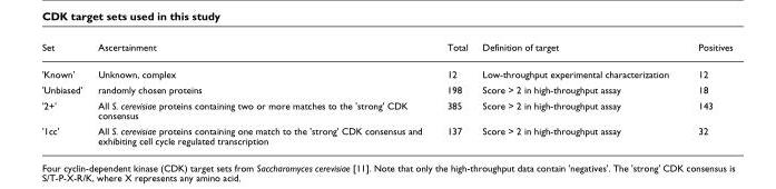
<table><thead><tr><td>Set</td><td>Ascertainment</td><td>Total</td><td>Definition of target</td><td>Positives</td></tr></thead><tbody><tr><td>&#x27;Known&#x27;</td><td>Unknown, complex</td><td>12</td><td>Low-throughput experimental characterization</td><td>12</td></tr><tr><td>&#x27;Unbiased&#x27;</td><td>randomly chosen proteins</td><td>198</td><td>Score &gt; 2 in high-throughput assay</td><td>18</td></tr><tr><td>&#x27;2+&#x27;</td><td>All S. cerevisiae proteins containing two or more matches to the &#x27;strong&#x27; CDK consensus</td><td>385</td><td>Score &gt; 2 in high-throughput assay</td><td>143</td></tr><tr><td>&#x27;1cc&#x27;</td><td>All S. cerevisiae proteins containing one match to the &#x27;strong&#x27; CDK consensus and exhibiting cell cycle regulated transcription</td><td>137</td><td>Score &gt; 2 in high-throughput assay</td><td>32</td></tr></tbody></table>